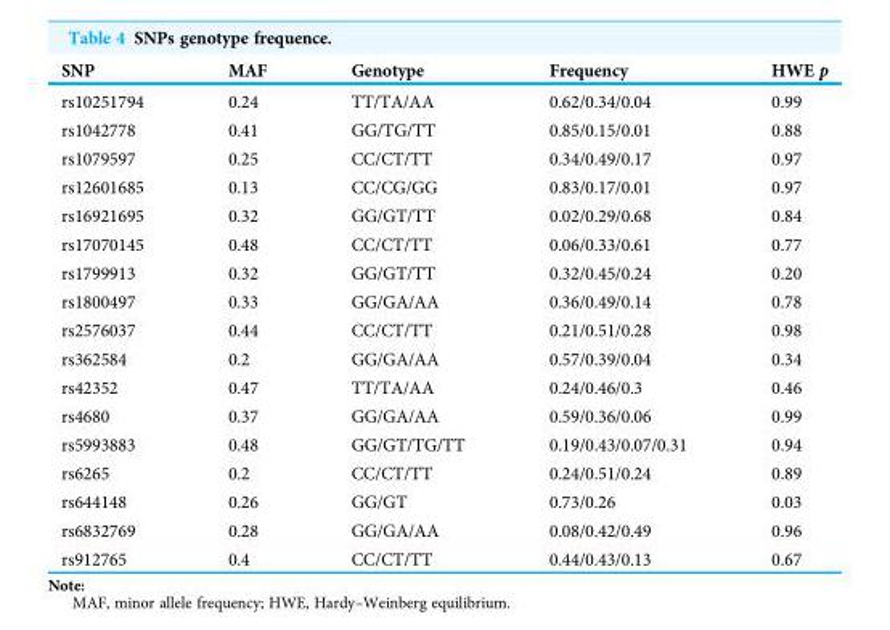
<table><thead><tr><td>SNP</td><td>MAF</td><td>Genotype</td><td>Frequency</td><td>HWE p</td></tr></thead><tbody><tr><td>rs10251794</td><td>0.24</td><td>TT/TA/AA</td><td>0.62/0.34/0.04</td><td>0.99</td></tr><tr><td>rs1042778</td><td>0.41</td><td>GG/TG/TT</td><td>0.85/0.15/0.01</td><td>0.88</td></tr><tr><td>rs1079597</td><td>0.25</td><td>CC/CT/TT</td><td>0.34/0.49/0.17</td><td>0.97</td></tr><tr><td>rs12601685</td><td>0.13</td><td>CC/CG/GG</td><td>0.83/0.17/0.01</td><td>0.97</td></tr><tr><td>rs16921695</td><td>0.32</td><td>GG/GT/TT</td><td>0.02/0.29/0.68</td><td>0.84</td></tr><tr><td>rs17070145</td><td>0.48</td><td>CC/CT/TT</td><td>0.06/0.33/0.61</td><td>0.77</td></tr><tr><td>rs1799913</td><td>0.32</td><td>GG/GT/TT</td><td>0.32/0.45/0.24</td><td>0.20</td></tr><tr><td>rs1800497</td><td>0.33</td><td>GG/GA/AA</td><td>0.36/0.49/0.14</td><td>0.78</td></tr><tr><td>rs2576037</td><td>0.44</td><td>CC/CT/TT</td><td>0.21/0.51/0.28</td><td>0.98</td></tr><tr><td>rs362584</td><td>0.2</td><td>GG/GA/AA</td><td>0.57/0.39/0.04</td><td>0.34</td></tr><tr><td>rs42352</td><td>0.47</td><td>TT/TA/AA</td><td>0.24/0.46/0.3</td><td>0.46</td></tr><tr><td>rs4680</td><td>0.37</td><td>GG/GA/AA</td><td>0.59/0.36/0.06</td><td>0.99</td></tr><tr><td>rs5993883</td><td>0.48</td><td>GG/GT/TG/TT</td><td>0.19/0.43/0.07/0.31</td><td>0.94</td></tr><tr><td>rs6265</td><td>0.2</td><td>CC/CT/TT</td><td>0.24/0.51/0.24</td><td>0.89</td></tr><tr><td>rs644148</td><td>0.26</td><td>GG/GT</td><td>0.73/0.26</td><td>0.03</td></tr><tr><td>rs6832769</td><td>0.28</td><td>GG/GA/AA</td><td>0.08/0.42/0.49</td><td>0.96</td></tr><tr><td>rs912765</td><td>0.4</td><td>CC/CT/TT</td><td>0.44/0.43/0.13</td><td>0.67</td></tr></tbody></table>